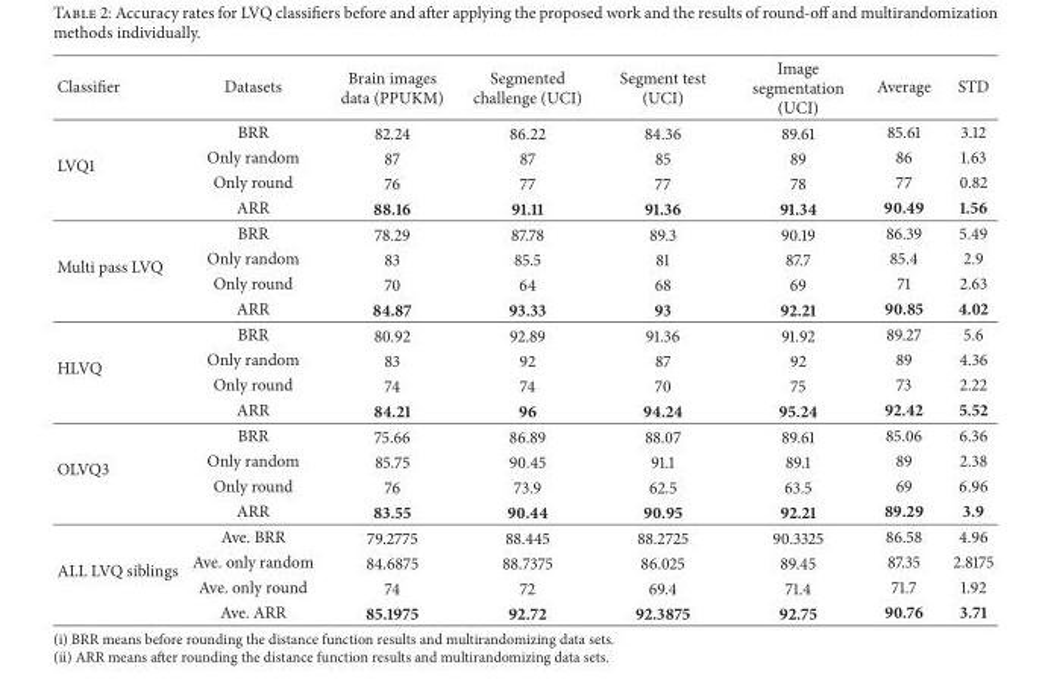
<table><thead><tr><td>Classifier</td><td>Datasets</td><td>Brain images data (PPUKM)</td><td>Segmented challenge (UCI)</td><td>Segment test (UCI)</td><td>Image segmentation (UCI)</td><td>Average</td><td>STD</td></tr></thead><tbody><tr><td rowspan="4">LVQ1</td><td>BRR</td><td>82.24</td><td>86.22</td><td>84.36</td><td>89.61</td><td>85.61</td><td>3.12</td></tr><tr><td>Only random</td><td>87</td><td>87</td><td>85</td><td>89</td><td>86</td><td>1.63</td></tr><tr><td>Only round</td><td>76</td><td>77</td><td>77</td><td>78</td><td>77</td><td>0.82</td></tr><tr><td>ARR</td><td>88.16</td><td>91.11</td><td>91.36</td><td>91.34</td><td>90.49</td><td>1.56</td></tr><tr><td rowspan="4">Multi pass LVQ</td><td>BRR</td><td>78.29</td><td>87.78</td><td>89.3</td><td>90.19</td><td>86.39</td><td>5.49</td></tr><tr><td>Only random</td><td>83</td><td>85.5</td><td>81</td><td>87.7</td><td>85.4</td><td>2.9</td></tr><tr><td>Only round</td><td>70</td><td>64</td><td>68</td><td>69</td><td>71</td><td>2.63</td></tr><tr><td>ARR</td><td>84.87</td><td>93.33</td><td>93</td><td>92.21</td><td>90.85</td><td>4.02</td></tr><tr><td rowspan="4">HLVQ</td><td>BRR</td><td>80.92</td><td>92.89</td><td>91.36</td><td>91.92</td><td>89.27</td><td>5.6</td></tr><tr><td>Only random</td><td>83</td><td>92</td><td>87</td><td>92</td><td>89</td><td>4.36</td></tr><tr><td>Only round</td><td>74</td><td>74</td><td>70</td><td>75</td><td>73</td><td>2.22</td></tr><tr><td>ARR</td><td>84.21</td><td>96</td><td>94.24</td><td>95.24</td><td>92.42</td><td>5.52</td></tr><tr><td rowspan="4">OLVQ3</td><td>BRR</td><td>75.66</td><td>86.89</td><td>88.07</td><td>89.61</td><td>85.06</td><td>6.36</td></tr><tr><td>Only random</td><td>85.75</td><td>90.45</td><td>91.1</td><td>89.1</td><td>89</td><td>2.38</td></tr><tr><td>Only round</td><td>76</td><td>73.9</td><td>62.5</td><td>63.5</td><td>69</td><td>6.96</td></tr><tr><td>ARR</td><td>83.55</td><td>90.44</td><td>90.95</td><td>92.21</td><td>89.29</td><td>3.9</td></tr><tr><td rowspan="4">ALL LVQ siblings</td><td>Ave. BRR</td><td>79.2775</td><td>88.445</td><td>88.2725</td><td>90.3325</td><td>86.58</td><td>4.96</td></tr><tr><td>Ave. only random</td><td>84.6875</td><td>88.7375</td><td>86.025</td><td>89.45</td><td>87.35</td><td>2.8175</td></tr><tr><td>Ave. only round</td><td>74</td><td>72</td><td>69.4</td><td>71.4</td><td>71.7</td><td>1.92</td></tr><tr><td>Ave. ARR</td><td>85.1975</td><td>92.72</td><td>92.3875</td><td>92.75</td><td>90.76</td><td>3.71</td></tr></tbody></table>